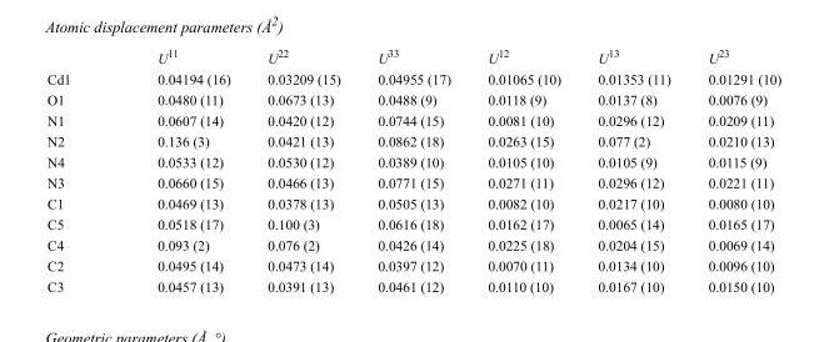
<table><thead><tr><td></td><td>U<sup>11</sup></td><td>U<sup>22</sup></td><td>U<sup>33</sup></td><td>U<sup>12</sup></td><td>U<sup>13</sup></td><td>U<sup>23</sup></td></tr></thead><tbody><tr><td>Cd1</td><td>0.04194 (16)</td><td>0.03209 (15)</td><td>0.04955 (17)</td><td>0.01065 (10)</td><td>0.01353 (11)</td><td>0.01291 (10)</td></tr><tr><td>O1</td><td>0.0480 (11)</td><td>0.0673 (13)</td><td>0.0488 (9)</td><td>0.0118 (9)</td><td>0.0137 (8)</td><td>0.0076 (9)</td></tr><tr><td>N1</td><td>0.0607 (14)</td><td>0.0420 (12)</td><td>0.0744 (15)</td><td>0.0081 (10)</td><td>0.0296 (12)</td><td>0.0209 (11)</td></tr><tr><td>N2</td><td>0.136 (3)</td><td>0.0421 (13)</td><td>0.0862 (18)</td><td>0.0263 (15)</td><td>0.077 (2)</td><td>0.0210 (13)</td></tr><tr><td>N4</td><td>0.0533 (12)</td><td>0.0530 (12)</td><td>0.0389 (10)</td><td>0.0105 (10)</td><td>0.0105 (9)</td><td>0.0115 (9)</td></tr><tr><td>N3</td><td>0.0660 (15)</td><td>0.0466 (13)</td><td>0.0771 (15)</td><td>0.0271 (11)</td><td>0.0296 (12)</td><td>0.0221 (11)</td></tr><tr><td>C1</td><td>0.0469 (13)</td><td>0.0378 (13)</td><td>0.0505 (13)</td><td>0.0082 (10)</td><td>0.0217 (10)</td><td>0.0080 (10)</td></tr><tr><td>C5</td><td>0.0518 (17)</td><td>0.100 (3)</td><td>0.0616 (18)</td><td>0.0162 (17)</td><td>0.0065 (14)</td><td>0.0165 (17)</td></tr><tr><td>C4</td><td>0.093 (2)</td><td>0.076 (2)</td><td>0.0426 (14)</td><td>0.0225 (18)</td><td>0.0204 (15)</td><td>0.0069 (14)</td></tr><tr><td>C2</td><td>0.0495 (14)</td><td>0.0473 (14)</td><td>0.0397 (12)</td><td>0.0070 (11)</td><td>0.0134 (10)</td><td>0.0096 (10)</td></tr><tr><td>C3</td><td>0.0457 (13)</td><td>0.0391 (13)</td><td>0.0461 (12)</td><td>0.0110 (10)</td><td>0.0167 (10)</td><td>0.0150 (10)</td></tr></tbody></table>